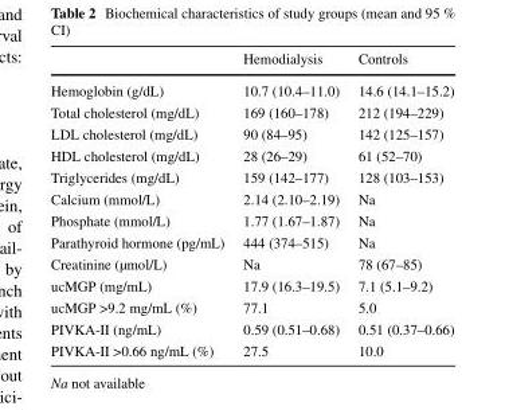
<table><thead><tr><td></td><td>Hemodialysis</td><td>Controls</td></tr></thead><tbody><tr><td>Hemoglobin (g/dL)</td><td>10.7 (10.4–11.0)</td><td>14.6 (14.1–15.2)</td></tr><tr><td>Total cholesterol (mg/dL)</td><td>169 (160–178)</td><td>212 (194–229)</td></tr><tr><td>LDL cholesterol (mg/dL)</td><td>90 (84–95)</td><td>142 (125–157)</td></tr><tr><td>HDL cholesterol (mg/dL)</td><td>28 (26–29)</td><td>61 (52–70)</td></tr><tr><td>Triglycerides (mg/dL)</td><td>159 (142–177)</td><td>128 (103–153)</td></tr><tr><td>Calcium (mmol/L)</td><td>2.14 (2.10–2.19)</td><td>Na</td></tr><tr><td>Phosphate (mmol/L)</td><td>1.77 (1.67–1.87)</td><td>Na</td></tr><tr><td>Parathyroid hormone (pg/mL)</td><td>444 (374–515)</td><td>Na</td></tr><tr><td>Creatinine (µmol/L)</td><td>Na</td><td>78 (67–85)</td></tr><tr><td>ucMGP (mg/mL)</td><td>17.9 (16.3–19.5)</td><td>7.1 (5.1–9.2)</td></tr><tr><td>ucMGP &gt;9.2 mg/mL (%)</td><td>77.1</td><td>5.0</td></tr><tr><td>PIVKA-II (ng/mL)</td><td>0.59 (0.51–0.68)</td><td>0.51 (0.37–0.66)</td></tr><tr><td>PIVKA-II &gt;0.66 ng/mL (%)</td><td>27.5</td><td>10.0</td></tr></tbody></table>